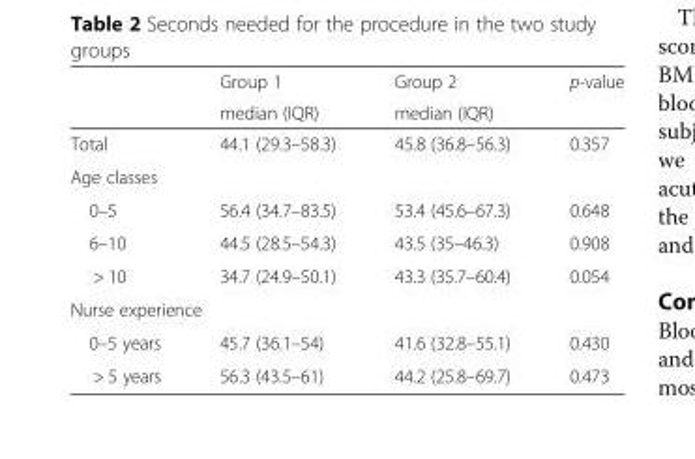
<table><thead><tr><td rowspan="2"></td><td rowspan="2">Group 1 median (IQR)</td><td rowspan="2">Group 2 median (IQR)</td><td rowspan="2">p-value</td></tr><tr></tr></thead><tbody><tr><td>Total</td><td>44.1 (29.3–58.3)</td><td>45.8 (36.8–56.3)</td><td>0.357</td></tr><tr><td colspan="4">Age classes</td></tr><tr><td>0–5</td><td>56.4 (34.7–83.5)</td><td>53.4 (45.6–67.3)</td><td>0.648</td></tr><tr><td>6–10</td><td>44.5 (28.5–54.3)</td><td>43.5 (35–46.3)</td><td>0.908</td></tr><tr><td>&gt; 10</td><td>34.7 (24.9–50.1)</td><td>43.3 (35.7–60.4)</td><td>0.054</td></tr><tr><td colspan="4">Nurse experience</td></tr><tr><td>0–5 years</td><td>45.7 (36.1–54)</td><td>41.6 (32.8–55.1)</td><td>0.430</td></tr><tr><td>&gt; 5 years</td><td>56.3 (43.5–61)</td><td>44.2 (25.8–69.7)</td><td>0.473</td></tr></tbody></table>